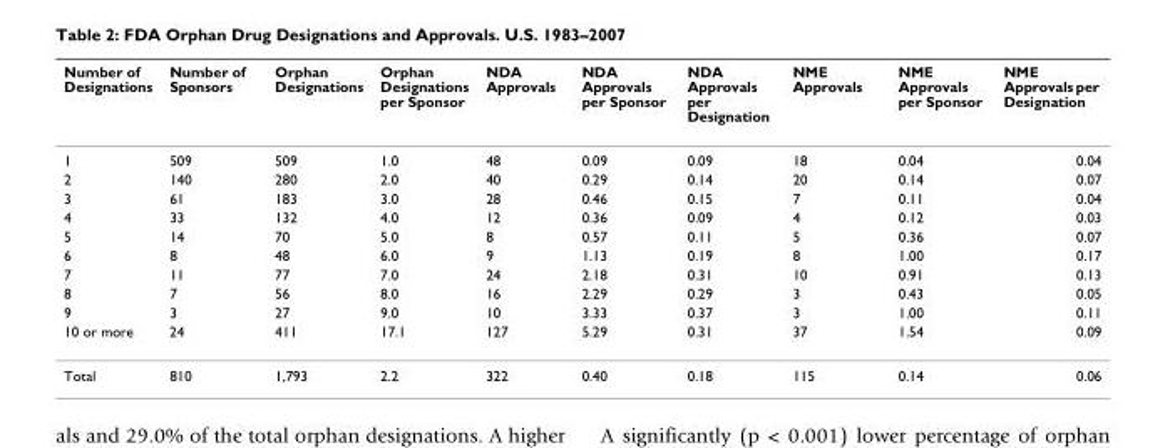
<table><thead><tr><td>Number of Designations</td><td>Number of Sponsors</td><td>Orphan Designations</td><td>Orphan Designations per Sponsor</td><td>NDA Approvals</td><td>NDA Approvals per Sponsor</td><td>NDA Approvals per Designation</td><td>NME Approvals</td><td>NME Approvals per Sponsor</td><td>NME Approvals per Designation</td></tr></thead><tbody><tr><td>1</td><td>509</td><td>509</td><td>1.0</td><td>48</td><td>0.09</td><td>0.09</td><td>18</td><td>0.04</td><td>0.04</td></tr><tr><td>2</td><td>140</td><td>280</td><td>2.0</td><td>40</td><td>0.29</td><td>0.14</td><td>20</td><td>0.14</td><td>0.07</td></tr><tr><td>3</td><td>61</td><td>183</td><td>3.0</td><td>28</td><td>0.46</td><td>0.15</td><td>7</td><td>0.11</td><td>0.04</td></tr><tr><td>4</td><td>33</td><td>132</td><td>4.0</td><td>12</td><td>0.36</td><td>0.09</td><td>4</td><td>0.12</td><td>0.03</td></tr><tr><td>5</td><td>14</td><td>70</td><td>5.0</td><td>8</td><td>0.57</td><td>0.11</td><td>5</td><td>0.36</td><td>0.07</td></tr><tr><td>6</td><td>8</td><td>48</td><td>6.0</td><td>9</td><td>1.13</td><td>0.19</td><td>8</td><td>1.00</td><td>0.17</td></tr><tr><td>7</td><td>11</td><td>77</td><td>7.0</td><td>24</td><td>2.18</td><td>0.31</td><td>10</td><td>0.91</td><td>0.13</td></tr><tr><td>8</td><td>7</td><td>56</td><td>8.0</td><td>16</td><td>2.29</td><td>0.29</td><td>3</td><td>0.43</td><td>0.05</td></tr><tr><td>9</td><td>3</td><td>27</td><td>9.0</td><td>10</td><td>3.33</td><td>0.37</td><td>3</td><td>1.00</td><td>0.11</td></tr><tr><td>10 or more</td><td>24</td><td>411</td><td>17.1</td><td>127</td><td>5.29</td><td>0.31</td><td>37</td><td>1.54</td><td>0.09</td></tr><tr><td>Total</td><td>810</td><td>1,793</td><td>2.2</td><td>322</td><td>0.40</td><td>0.18</td><td>115</td><td>0.14</td><td>0.06</td></tr></tbody></table>